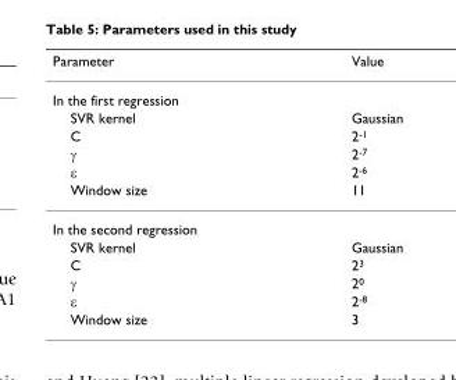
<table><thead><tr><td>Parameter</td><td>Value</td></tr></thead><tbody><tr><td colspan="2">In the first regression</td></tr><tr><td>SVR kernel</td><td>Gaussian</td></tr><tr><td>C</td><td>2<sup>-1</sup></td></tr><tr><td>γ</td><td>2<sup>-7</sup></td></tr><tr><td>ε</td><td>2<sup>-6</sup></td></tr><tr><td>Window size</td><td>11</td></tr><tr><td colspan="2">In the second regression</td></tr><tr><td>SVR kernel</td><td>Gaussian</td></tr><tr><td>C</td><td>2<sup>3</sup></td></tr><tr><td>γ</td><td>2<sup>0</sup></td></tr><tr><td>ε</td><td>2<sup>-8</sup></td></tr><tr><td>Window size</td><td>3</td></tr></tbody></table>